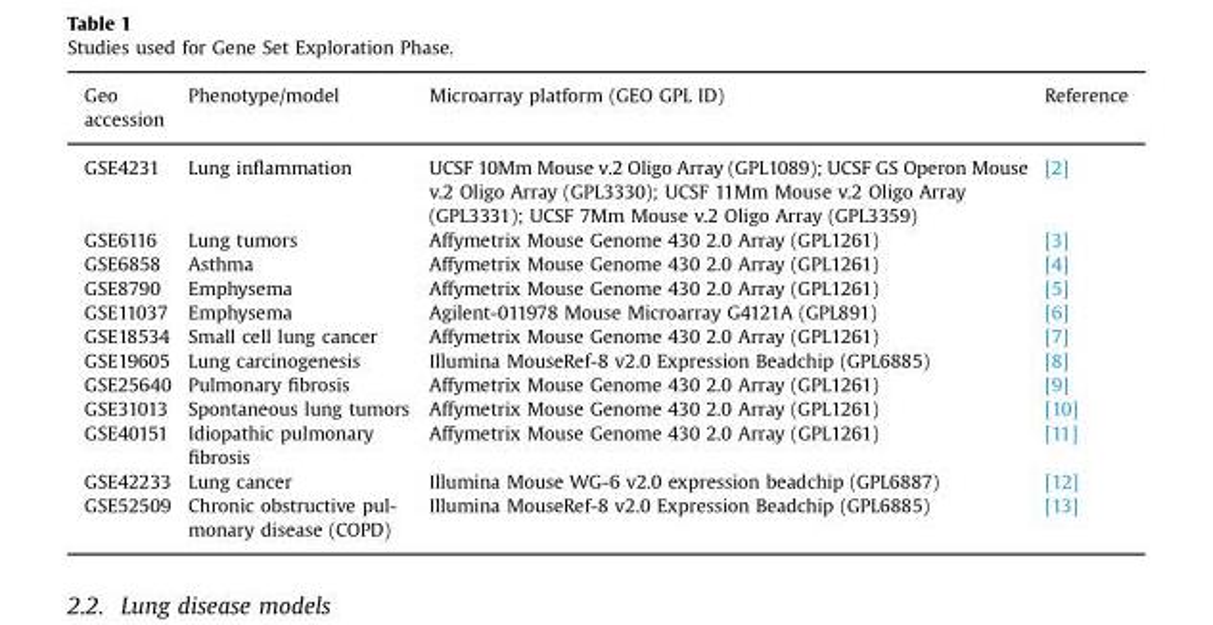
<table><thead><tr><td>Geo accession</td><td>Phenotype/model</td><td>Microarray platform (GEO GPL ID)</td><td>Reference</td></tr></thead><tbody><tr><td>GSE4231</td><td>Lung inflammation</td><td>UCSF 10Mm Mouse v.2 Oligo Array (GPL1089); UCSF GS Operon Mouse v.2 Oligo Array (GPL3330); UCSF 11Mm Mouse v.2 Oligo Array (GPL3331); UCSF 7Mm Mouse v.2 Oligo Array (GPL3359)</td><td>[2]</td></tr><tr><td>GSE6116</td><td>Lung tumors</td><td>Affymetrix Mouse Genome 430 2.0 Array (GPL1261)</td><td>[3]</td></tr><tr><td>GSE6858</td><td>Asthma</td><td>Affymetrix Mouse Genome 430 2.0 Array (GPL1261)</td><td>[4]</td></tr><tr><td>GSE8790</td><td>Emphysema</td><td>Affymetrix Mouse Genome 430 2.0 Array (GPL1261)</td><td>[5]</td></tr><tr><td>GSE11037</td><td>Emphysema</td><td>Agilent-011978 Mouse Microarray G4121A (GPL891)</td><td>[6]</td></tr><tr><td>GSE18534</td><td>Small cell lung cancer</td><td>Affymetrix Mouse Genome 430 2.0 Array (GPL1261)</td><td>[7]</td></tr><tr><td>GSE19605</td><td>Lung carcinogenesis</td><td>Illumina MouseRef-8 v2.0 Expression Beadchip (GPL6885)</td><td>[8]</td></tr><tr><td>GSE25640</td><td>Pulmonary fibrosis</td><td>Affymetrix Mouse Genome 430 2.0 Array (GPL1261)</td><td>[9]</td></tr><tr><td>GSE31013</td><td>Spontaneous lung tumors</td><td>Affymetrix Mouse Genome 430 2.0 Array (GPL1261)</td><td>[10]</td></tr><tr><td>GSE40151</td><td>Idiopathic pulmonary fibrosis</td><td>Affymetrix Mouse Genome 430 2.0 Array (GPL1261)</td><td>[11]</td></tr><tr><td>GSE42233</td><td>Lung cancer</td><td>Illumina Mouse WG-6 v2.0 expression beadchip (GPL6887)</td><td>[12]</td></tr><tr><td>GSE52509</td><td>Chronic obstructive pul- monary disease (COPD)</td><td>Illumina MouseRef-8 v2.0 Expression Beadchip (GPL6885)</td><td>[13]</td></tr></tbody></table>